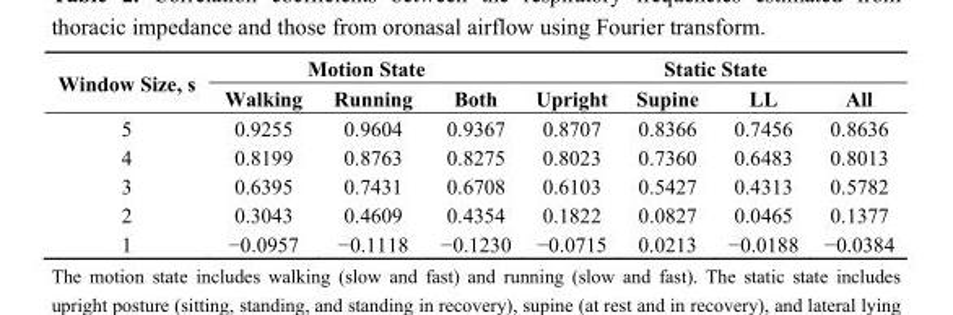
<table><thead><tr><td rowspan="2">Window Size, s</td><td colspan="3">Motion State</td><td colspan="4">Static State</td></tr><tr><td>Walking</td><td>Running</td><td>Both</td><td>Upright</td><td>Supine</td><td>LL</td><td>All</td></tr></thead><tbody><tr><td>5</td><td>0.9255</td><td>0.9604</td><td>0.9367</td><td>0.8707</td><td>0.8366</td><td>0.7456</td><td>0.8636</td></tr><tr><td>4</td><td>0.8199</td><td>0.8763</td><td>0.8275</td><td>0.8023</td><td>0.7360</td><td>0.6483</td><td>0.8013</td></tr><tr><td>3</td><td>0.6395</td><td>0.7431</td><td>0.6708</td><td>0.6103</td><td>0.5427</td><td>0.4313</td><td>0.5782</td></tr><tr><td>2</td><td>0.3043</td><td>0.4609</td><td>0.4354</td><td>0.1822</td><td>0.0827</td><td>0.0465</td><td>0.1377</td></tr><tr><td>1</td><td>−0.0957</td><td>−0.1118</td><td>−0.1230</td><td>−0.0715</td><td>0.0213</td><td>−0.0188</td><td>−0.0384</td></tr></tbody></table>